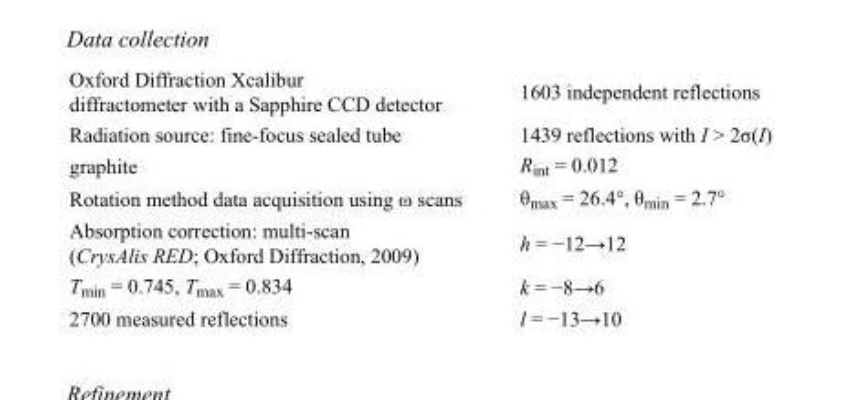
<table><tbody><tr><td>Oxford Diffraction Xcalibur diffractometer with a Sapphire CCD detector</td><td>1603 independent reflections</td></tr><tr><td>Radiation source: fine-focus sealed tube</td><td>1439 reflections with I &gt; 2σ(I)</td></tr><tr><td>graphite</td><td>R<sub>int</sub> = 0.012</td></tr><tr><td>Rotation method data acquisition using ω scans</td><td>θ<sub>max</sub> = 26.4°, θ<sub>min</sub> = 2.7°</td></tr><tr><td>Absorption correction: multi-scan (CrysAlis RED; Oxford Diffraction, 2009)</td><td>h = −12→12</td></tr><tr><td>T<sub>min</sub> = 0.745, T<sub>max</sub> = 0.834</td><td>k = −8→6</td></tr><tr><td>2700 measured reflections</td><td>l = −13→10</td></tr></tbody></table>